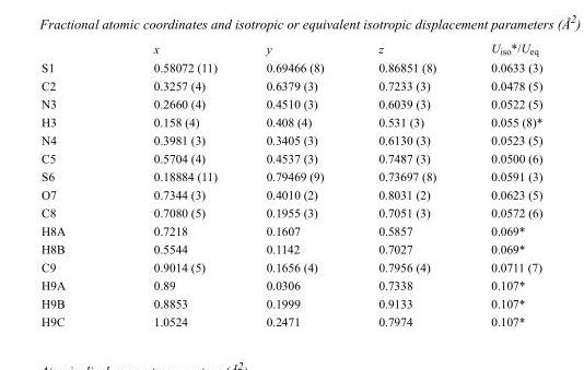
<table><thead><tr><td></td><td>x</td><td>y</td><td>z</td><td>U<sub>iso</sub>*/U<sub>eq</sub></td></tr></thead><tbody><tr><td>S1</td><td>0.58072 (11)</td><td>0.69466 (8)</td><td>0.86851 (8)</td><td>0.0633 (3)</td></tr><tr><td>C2</td><td>0.3257 (4)</td><td>0.6379 (3)</td><td>0.7233 (3)</td><td>0.0478 (5)</td></tr><tr><td>N3</td><td>0.2660 (4)</td><td>0.4510 (3)</td><td>0.6039 (3)</td><td>0.0522 (5)</td></tr><tr><td>H3</td><td>0.158 (4)</td><td>0.408 (4)</td><td>0.531 (3)</td><td>0.055 (8)*</td></tr><tr><td>N4</td><td>0.3981 (3)</td><td>0.3405 (3)</td><td>0.6130 (3)</td><td>0.0523 (5)</td></tr><tr><td>C5</td><td>0.5704 (4)</td><td>0.4537 (3)</td><td>0.7487 (3)</td><td>0.0500 (6)</td></tr><tr><td>S6</td><td>0.18884 (11)</td><td>0.79469 (9)</td><td>0.73697 (8)</td><td>0.0591 (3)</td></tr><tr><td>O7</td><td>0.7344 (3)</td><td>0.4010 (2)</td><td>0.8031 (2)</td><td>0.0623 (5)</td></tr><tr><td>C8</td><td>0.7080 (5)</td><td>0.1955 (3)</td><td>0.7051 (3)</td><td>0.0572 (6)</td></tr><tr><td>H8A</td><td>0.7218</td><td>0.1607</td><td>0.5857</td><td>0.069*</td></tr><tr><td>H8B</td><td>0.5544</td><td>0.1142</td><td>0.7027</td><td>0.069*</td></tr><tr><td>C9</td><td>0.9014 (5)</td><td>0.1656 (4)</td><td>0.7956 (4)</td><td>0.0711 (7)</td></tr><tr><td>H9A</td><td>0.89</td><td>0.0306</td><td>0.7338</td><td>0.107*</td></tr><tr><td>H9B</td><td>0.8853</td><td>0.1999</td><td>0.9133</td><td>0.107*</td></tr><tr><td>H9C</td><td>1.0524</td><td>0.2471</td><td>0.7974</td><td>0.107*</td></tr></tbody></table>